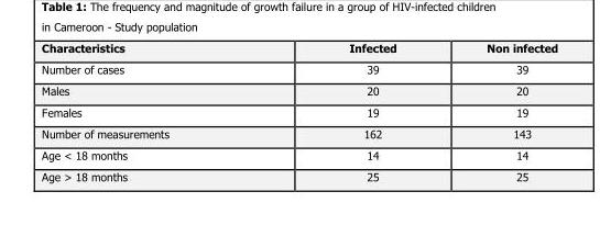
<table><thead><tr><td>Characteristics</td><td>Infected</td><td>Non infected</td></tr></thead><tbody><tr><td>Number of cases</td><td>39</td><td>39</td></tr><tr><td>Males</td><td>20</td><td>20</td></tr><tr><td>Females</td><td>19</td><td>19</td></tr><tr><td>Number of measurements</td><td>162</td><td>143</td></tr><tr><td>Age &lt; 18 months</td><td>14</td><td>14</td></tr><tr><td>Age &gt; 18 months</td><td>25</td><td>25</td></tr></tbody></table>